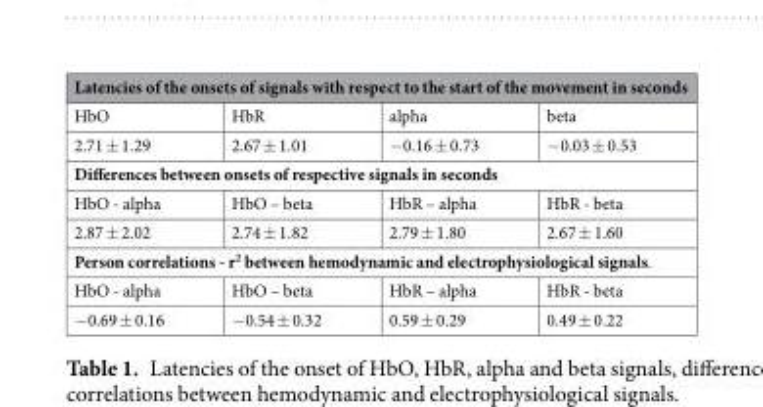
<table><thead><tr><td colspan="4">Latencies of the onsets of signals with respect to the start of the movement in seconds</td></tr><tr><td>HbO</td><td>HbR</td><td>alpha</td><td>beta</td></tr></thead><tbody><tr><td>2.71 ± 1.29</td><td>2.67 ± 1.01</td><td>−0.16 ± 0.73</td><td>−0.03 ± 0.53</td></tr><tr><td colspan="4">Differences between onsets of respective signals in seconds</td></tr><tr><td>HbO - alpha</td><td>HbO – beta</td><td>HbR – alpha</td><td>HbR - beta</td></tr><tr><td>2.87 ± 2.02</td><td>2.74 ± 1.82</td><td>2.79 ± 1.80</td><td>2.67 ± 1.60</td></tr><tr><td colspan="4">Person correlations - r<sup>2</sup> between hemodynamic and electrophysiological signals.</td></tr><tr><td>HbO - alpha</td><td>HbO – beta</td><td>HbR – alpha</td><td>HbR - beta</td></tr><tr><td>−0.69 ± 0.16</td><td>−0.54 ± 0.32</td><td>0.59 ± 0.29</td><td>0.49 ± 0.22</td></tr></tbody></table>